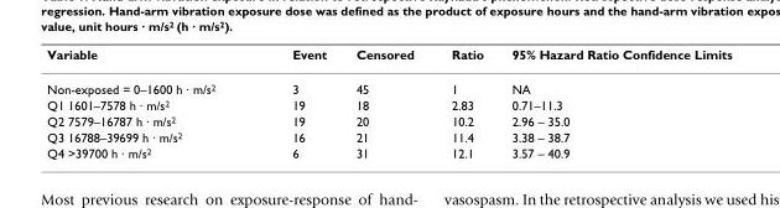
<table><thead><tr><td>Variable</td><td>Event</td><td>Censored</td><td>Ratio</td><td>95% Hazard Ratio Confidence Limits</td></tr></thead><tbody><tr><td>Non-exposed = 0–1600 h · m/s<sup>2</sup></td><td>3</td><td>45</td><td>1</td><td>NA</td></tr><tr><td>Q1 1601–7578 h · m/s<sup>2</sup></td><td>19</td><td>18</td><td>2.83</td><td>0.71–11.3</td></tr><tr><td>Q2 7579–16787 h · m/s<sup>2</sup></td><td>19</td><td>20</td><td>10.2</td><td>2.96 – 35.0</td></tr><tr><td>Q3 16788–39699 h · m/s<sup>2</sup></td><td>16</td><td>21</td><td>11.4</td><td>3.38 – 38.7</td></tr><tr><td>Q4 &gt;39700 h · m/s<sup>2</sup></td><td>6</td><td>31</td><td>12.1</td><td>3.57 – 40.9</td></tr></tbody></table>